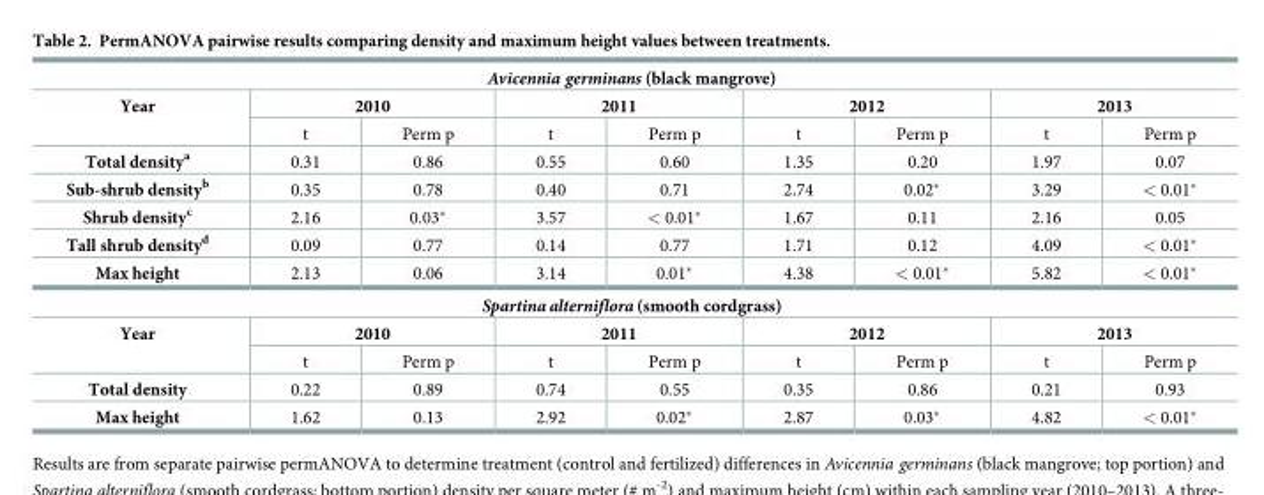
<table><tbody><tr><td colspan="9">Avicennia germinans (black mangrove)</td></tr><tr><td rowspan="2">Year</td><td colspan="2">2010</td><td colspan="2">2011</td><td colspan="2">2012</td><td colspan="2">2013</td></tr><tr><td>t</td><td>Perm p</td><td>t</td><td>Perm p</td><td>t</td><td>Perm p</td><td>t</td><td>Perm p</td></tr><tr><td>Total density<sup>a</sup></td><td>0.31</td><td>0.86</td><td>0.55</td><td>0.60</td><td>1.35</td><td>0.20</td><td>1.97</td><td>0.07</td></tr><tr><td>Sub-shrub density<sup>b</sup></td><td>0.35</td><td>0.78</td><td>0.40</td><td>0.71</td><td>2.74</td><td>0.02*</td><td>3.29</td><td>&lt; 0.01*</td></tr><tr><td>Shrub density<sup>c</sup></td><td>2.16</td><td>0.03*</td><td>3.57</td><td>&lt; 0.01*</td><td>1.67</td><td>0.11</td><td>2.16</td><td>0.05</td></tr><tr><td>Tall shrub density<sup>d</sup></td><td>0.09</td><td>0.77</td><td>0.14</td><td>0.77</td><td>1.71</td><td>0.12</td><td>4.09</td><td>&lt; 0.01*</td></tr><tr><td>Max height</td><td>2.13</td><td>0.06</td><td>3.14</td><td>0.01*</td><td>4.38</td><td>&lt; 0.01*</td><td>5.82</td><td>&lt; 0.01*</td></tr><tr><td colspan="9">Spartina alterniflora (smooth cordgrass)</td></tr><tr><td rowspan="2">Year</td><td colspan="2">2010</td><td colspan="2">2011</td><td colspan="2">2012</td><td colspan="2">2013</td></tr><tr><td>t</td><td>Perm p</td><td>t</td><td>Perm p</td><td>t</td><td>Perm p</td><td>t</td><td>Perm p</td></tr><tr><td>Total density</td><td>0.22</td><td>0.89</td><td>0.74</td><td>0.55</td><td>0.35</td><td>0.86</td><td>0.21</td><td>0.93</td></tr><tr><td>Max height</td><td>1.62</td><td>0.13</td><td>2.92</td><td>0.02*</td><td>2.87</td><td>0.03*</td><td>4.82</td><td>&lt; 0.01*</td></tr></tbody></table>